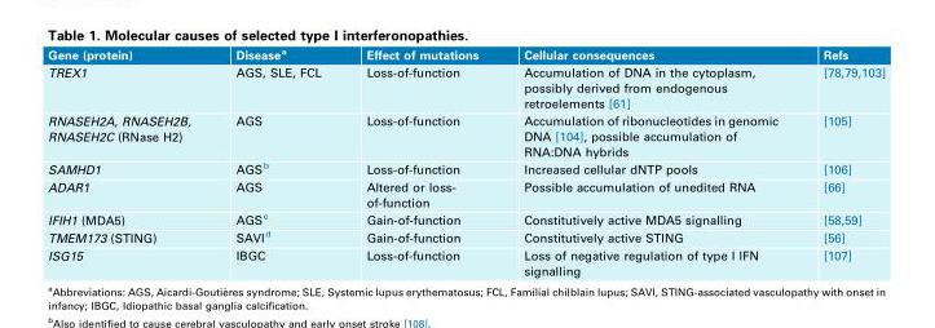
<table><thead><tr><td>Gene (protein)</td><td>Disease<sup>a</sup></td><td>Effect of mutations</td><td>Cellular consequences</td><td>Refs</td></tr></thead><tbody><tr><td>TREX1</td><td>AGS, SLE, FCL</td><td>Loss-of-function</td><td>Accumulation of DNA in the cytoplasm, possibly derived from endogenous retroelements [61]</td><td>[78,79,103]</td></tr><tr><td>RNASEH2A, RNASEH2B, RNASEH2C (RNase H2)</td><td>AGS</td><td>Loss-of-function</td><td>Accumulation of ribonucleotides in genomic DNA [104], possible accumulation of RNA:DNA hybrids</td><td>[105]</td></tr><tr><td>SAMHD1</td><td>AGS<sup>b</sup></td><td>Loss-of-function</td><td>Increased cellular dNTP pools</td><td>[106]</td></tr><tr><td>ADAR1</td><td>AGS</td><td>Altered or loss- of-function</td><td>Possible accumulation of unedited RNA</td><td>[66]</td></tr><tr><td>IFIH1 (MDA5)</td><td>AGS<sup>c</sup></td><td>Gain-of-function</td><td>Constitutively active MDA5 signalling</td><td>[58,59]</td></tr><tr><td>TMEM173 (STING)</td><td>SAVI<sup>d</sup></td><td>Gain-of-function</td><td>Constitutively active STING</td><td>[56]</td></tr><tr><td>ISG15</td><td>IBGC</td><td>Loss-of-function</td><td>Loss of negative regulation of type I IFN signalling</td><td>[107]</td></tr></tbody></table>